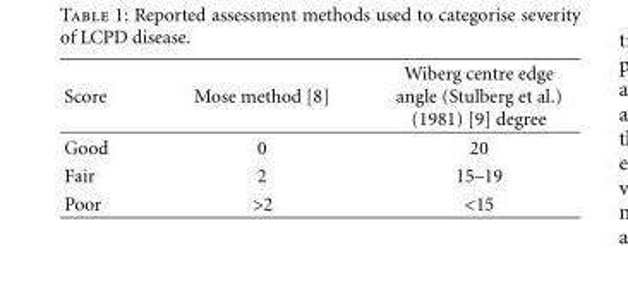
<table><thead><tr><td>Score</td><td>Mose method [8]</td><td>Wiberg centre edge angle (Stulberg et al.) (1981) [9] degree</td></tr></thead><tbody><tr><td>Good</td><td>0</td><td>20</td></tr><tr><td>Fair</td><td>2</td><td>15–19</td></tr><tr><td>Poor</td><td>&gt;2</td><td>&lt;15</td></tr></tbody></table>